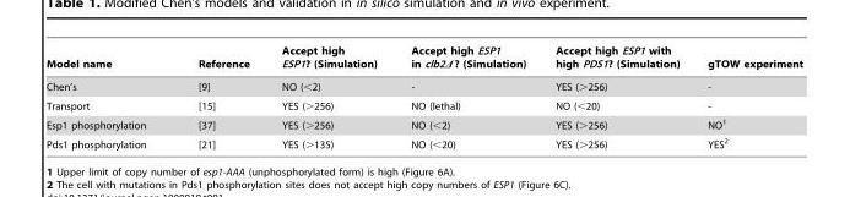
<table><thead><tr><td>Model name</td><td>Reference</td><td>Accept high ESP1? (Simulation)</td><td>Accept high ESP1 in clb2Δ ? (Simulation)</td><td>Accept high ESP1 with high PDS1? (Simulation)</td><td>gTOW experiment</td></tr></thead><tbody><tr><td>Chen’s</td><td>[9]</td><td>NO (&lt;2)</td><td>-</td><td>YES (&gt;256)</td><td>-</td></tr><tr><td>Transport</td><td>[15]</td><td>YES (&gt;256)</td><td>NO (lethal)</td><td>NO (&lt;20)</td><td>-</td></tr><tr><td>Esp1 phosphorylation</td><td>[37]</td><td>YES (&gt;256)</td><td>NO (&lt;2)</td><td>YES (&gt;256)</td><td>NO<sup>1</sup></td></tr><tr><td>Pds1 phosphorylation</td><td>[21]</td><td>YES (&gt;135)</td><td>NO (&lt;20)</td><td>YES (&gt;256)</td><td>YES<sup>2</sup></td></tr></tbody></table>